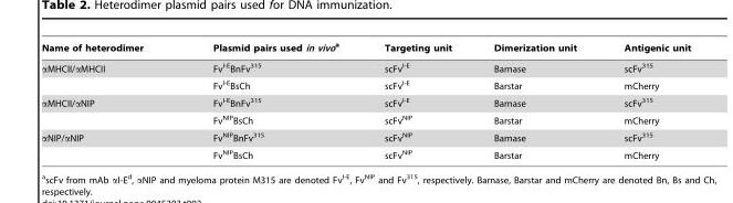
<table><thead><tr><td>Name of heterodimer</td><td>Plasmid pairs used in vivoa</td><td>Targeting unit</td><td>Dimerization unit</td><td>Antigenic unit</td></tr></thead><tbody><tr><td rowspan="2">αMHCII/αMHCII</td><td>Fv<sup>I-E</sup>BnFv<sup>315</sup></td><td>scFv<sup>I-E</sup></td><td>Barnase</td><td>scFv<sup>315</sup></td></tr><tr><td>Fv<sup>I-E</sup>BsCh</td><td>scFv<sup>I-E</sup></td><td>Barstar</td><td>mCherry</td></tr><tr><td rowspan="2">αMHCII/αNIP</td><td>Fv<sup>I-E</sup>BnFv<sup>315</sup></td><td>scFv<sup>I-E</sup></td><td>Barnase</td><td>scFv<sup>315</sup></td></tr><tr><td>Fv<sup>NIP</sup>BsCh</td><td>scFv<sup>NIP</sup></td><td>Barstar</td><td>mCherry</td></tr><tr><td rowspan="2">αNIP/αNIP</td><td>Fv<sup>NIP</sup>BnFv<sup>315</sup></td><td>scFv<sup>NIP</sup></td><td>Barnase</td><td>scFv<sup>315</sup></td></tr><tr><td>Fv<sup>NIP</sup>BsCh</td><td>scFv<sup>NIP</sup></td><td>Barstar</td><td>mCherry</td></tr></tbody></table>